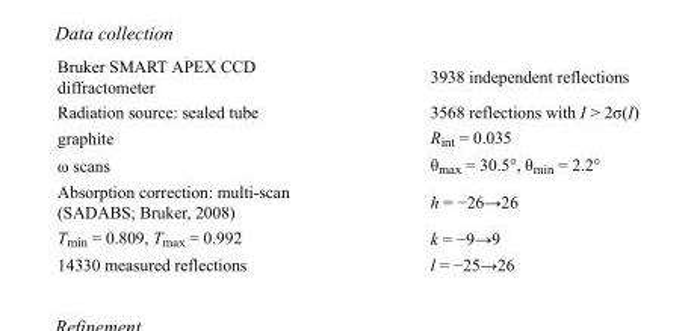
<table><tbody><tr><td>Bruker SMART APEX CCD diffractometer</td><td>3938 independent reflections</td></tr><tr><td>Radiation source: sealed tube</td><td>3568 reflections with I &gt; 2σ(I)</td></tr><tr><td>graphite</td><td>R<sub>int</sub> = 0.035</td></tr><tr><td>ω scans</td><td>θ<sub>max</sub> = 30.5°, θ<sub>min</sub> = 2.2°</td></tr><tr><td>Absorption correction: multi-scan (SADABS; Bruker, 2008)</td><td>h = −26→26</td></tr><tr><td>T<sub>min</sub> = 0.809, T<sub>max</sub> = 0.992</td><td>k = −9→9</td></tr><tr><td>14330 measured reflections</td><td>l = −25→26</td></tr></tbody></table>